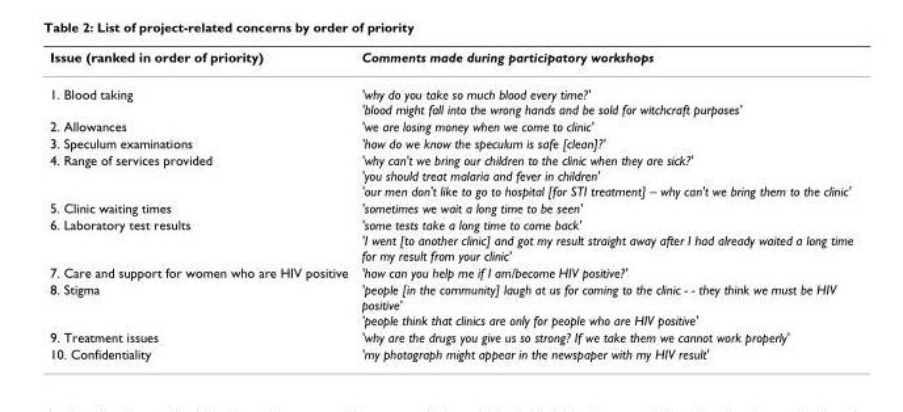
<table><thead><tr><td>Issue (ranked in order of priority)</td><td>Comments made during participatory workshops</td></tr></thead><tbody><tr><td>1. Blood taking</td><td>&#x27;why do you take so much blood every time?&#x27; &#x27;blood might fall into the wrong hands and be sold for witchcraft purposes&#x27;</td></tr><tr><td>2. Allowances</td><td>&#x27;we are losing money when we come to clinic&#x27;</td></tr><tr><td>3. Speculum examinations</td><td>&#x27;how do we know the speculum is safe [clean]?&#x27;</td></tr><tr><td>4. Range of services provided</td><td>&#x27;why can&#x27;t we bring our children to the clinic when they are sick?&#x27; &#x27;you should treat malaria and fever in children&#x27; &#x27;our men don&#x27;t like to go to hospital [for STI treatment] – why can&#x27;t we bring them to the clinic&#x27;</td></tr><tr><td>5. Clinic waiting times</td><td>&#x27;sometimes we wait a long time to be seen&#x27;</td></tr><tr><td>6. Laboratory test results</td><td>&#x27;some tests take a long time to come back&#x27; &#x27;I went [to another clinic] and got my result straight away after I had already waited a long time for my result from your clinic&#x27;</td></tr><tr><td>7. Care and support for women who are HIV positive</td><td>&#x27;how can you help me if I am/become HIV positive?&#x27;</td></tr><tr><td>8. Stigma</td><td>&#x27;people [in the community] laugh at us for coming to the clinic - - they think we must be HIV positive&#x27; &#x27;people think that clinics are only for people who are HIV positive&#x27;</td></tr><tr><td>9. Treatment issues</td><td>&#x27;why are the drugs you give us so strong? If we take them we cannot work properly&#x27;</td></tr><tr><td>10. Confidentiality</td><td>&#x27;my photograph might appear in the newspaper with my HIV result&#x27;</td></tr></tbody></table>